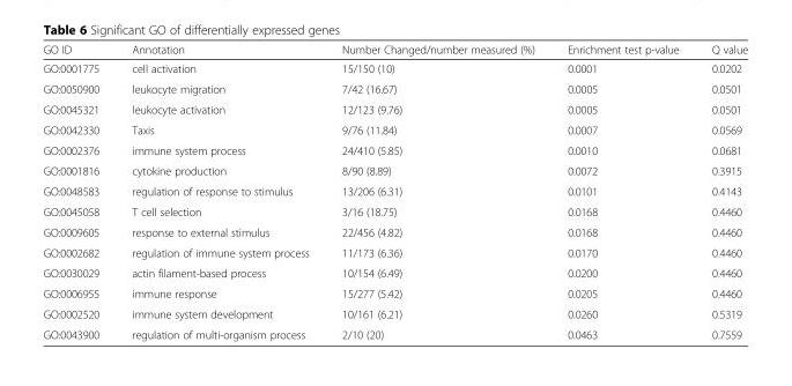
<table><thead><tr><td>GO ID</td><td>Annotation</td><td>Number Changed/number measured (%)</td><td>Enrichment test p-value</td><td>Q value</td></tr></thead><tbody><tr><td>GO:0001775</td><td>cell activation</td><td>15/150 (10)</td><td>0.0001</td><td>0.0202</td></tr><tr><td>GO:0050900</td><td>leukocyte migration</td><td>7/42 (16.67)</td><td>0.0005</td><td>0.0501</td></tr><tr><td>GO:0045321</td><td>leukocyte activation</td><td>12/123 (9.76)</td><td>0.0005</td><td>0.0501</td></tr><tr><td>GO:0042330</td><td>Taxis</td><td>9/76 (11.84)</td><td>0.0007</td><td>0.0569</td></tr><tr><td>GO:0002376</td><td>immune system process</td><td>24/410 (5.85)</td><td>0.0010</td><td>0.0681</td></tr><tr><td>GO:0001816</td><td>cytokine production</td><td>8/90 (8.89)</td><td>0.0072</td><td>0.3915</td></tr><tr><td>GO:0048583</td><td>regulation of response to stimulus</td><td>13/206 (6.31)</td><td>0.0101</td><td>0.4143</td></tr><tr><td>GO:0045058</td><td>T cell selection</td><td>3/16 (18.75)</td><td>0.0168</td><td>0.4460</td></tr><tr><td>GO:0009605</td><td>response to external stimulus</td><td>22/456 (4.82)</td><td>0.0168</td><td>0.4460</td></tr><tr><td>GO:0002682</td><td>regulation of immune system process</td><td>11/173 (6.36)</td><td>0.0170</td><td>0.4460</td></tr><tr><td>GO:0030029</td><td>actin filament-based process</td><td>10/154 (6.49)</td><td>0.0200</td><td>0.4460</td></tr><tr><td>GO:0006955</td><td>immune response</td><td>15/277 (5.42)</td><td>0.0205</td><td>0.4460</td></tr><tr><td>GO:0002520</td><td>immune system development</td><td>10/161 (6.21)</td><td>0.0260</td><td>0.5319</td></tr><tr><td>GO:0043900</td><td>regulation of multi-organism process</td><td>2/10 (20)</td><td>0.0463</td><td>0.7559</td></tr></tbody></table>